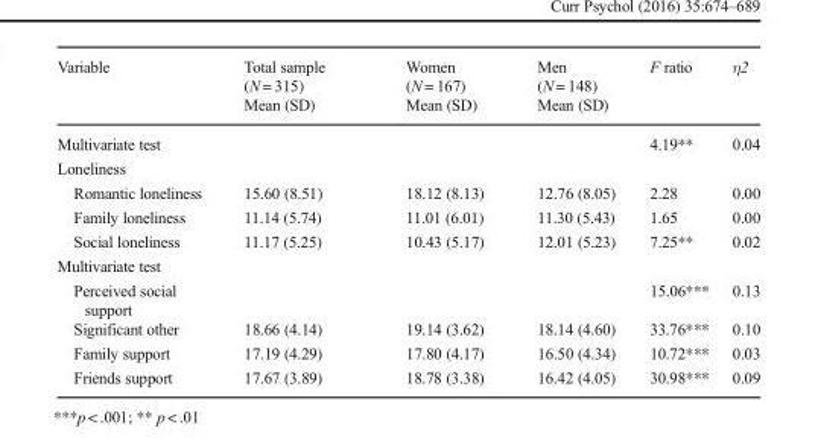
<table><thead><tr><td rowspan="2">Variable</td><td rowspan="2">Total sample (N = 315) Mean (SD)</td><td rowspan="2">Women (N = 167) Mean (SD)</td><td rowspan="2">Men (N = 148) Mean (SD)</td><td rowspan="2">F ratio</td><td rowspan="2">η2</td></tr><tr></tr></thead><tbody><tr><td>Multivariate test</td><td></td><td></td><td></td><td>4.19**</td><td>0.04</td></tr><tr><td colspan="6">Loneliness</td></tr><tr><td>Romantic loneliness</td><td>15.60 (8.51)</td><td>18.12 (8.13)</td><td>12.76 (8.05)</td><td>2.28</td><td>0.00</td></tr><tr><td>Family loneliness</td><td>11.14 (5.74)</td><td>11.01 (6.01)</td><td>11.30 (5.43)</td><td>1.65</td><td>0.00</td></tr><tr><td>Social loneliness</td><td>11.17 (5.25)</td><td>10.43 (5.17)</td><td>12.01 (5.23)</td><td>7.25**</td><td>0.02</td></tr><tr><td colspan="6">Multivariate test</td></tr><tr><td>Perceived social support</td><td></td><td></td><td></td><td>15.06***</td><td>0.13</td></tr><tr><td>Significant other</td><td>18.66 (4.14)</td><td>19.14 (3.62)</td><td>18.14 (4.60)</td><td>33.76***</td><td>0.10</td></tr><tr><td>Family support</td><td>17.19 (4.29)</td><td>17.80 (4.17)</td><td>16.50 (4.34)</td><td>10.72***</td><td>0.03</td></tr><tr><td>Friends support</td><td>17.67 (3.89)</td><td>18.78 (3.38)</td><td>16.42 (4.05)</td><td>30.98***</td><td>0.09</td></tr></tbody></table>